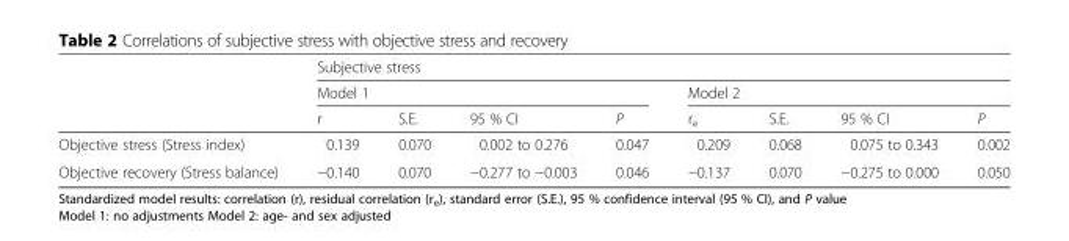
<table><thead><tr><td rowspan="3"></td><td colspan="8">Subjective stress</td></tr><tr><td colspan="4">Model 1</td><td colspan="4">Model 2</td></tr><tr><td>r</td><td>S.E.</td><td>95 % CI</td><td>P</td><td>r<sub>e</sub></td><td>S.E.</td><td>95 % CI</td><td>P</td></tr></thead><tbody><tr><td>Objective stress (Stress index)</td><td>0.139</td><td>0.070</td><td>0.002 to 0.276</td><td>0.047</td><td>0.209</td><td>0.068</td><td>0.075 to 0.343</td><td>0.002</td></tr><tr><td>Objective recovery (Stress balance)</td><td>−0.140</td><td>0.070</td><td>−0.277 to −0.003</td><td>0.046</td><td>−0.137</td><td>0.070</td><td>−0.275 to 0.000</td><td>0.050</td></tr></tbody></table>